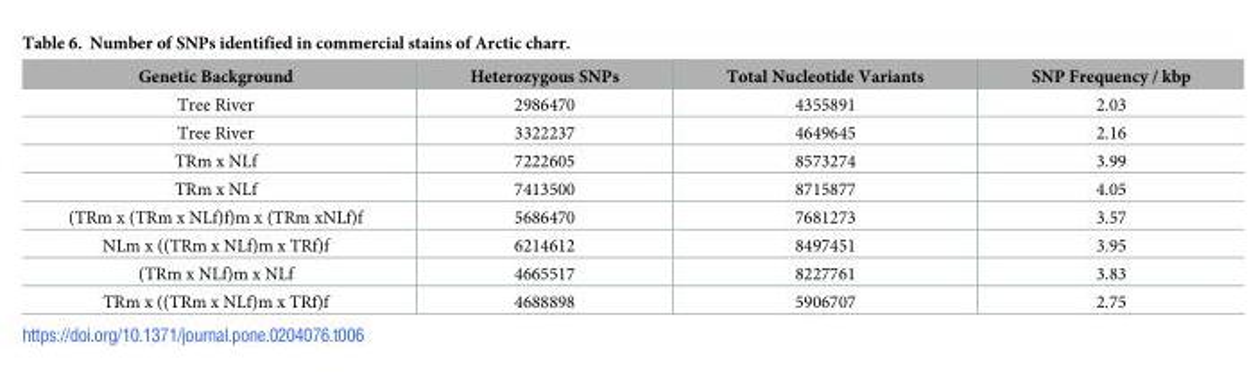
<table><thead><tr><td>Genetic Background</td><td>Heterozygous SNPs</td><td>Total Nucleotide Variants</td><td>SNP Frequency / kbp</td></tr></thead><tbody><tr><td>Tree River</td><td>2986470</td><td>4355891</td><td>2.03</td></tr><tr><td>Tree River</td><td>3322237</td><td>4649645</td><td>2.16</td></tr><tr><td>TRm x NLf</td><td>7222605</td><td>8573274</td><td>3.99</td></tr><tr><td>TRm x NLf</td><td>7413500</td><td>8715877</td><td>4.05</td></tr><tr><td>(TRm x (TRm x NLf)f)m x (TRm xNLf)f</td><td>5686470</td><td>7681273</td><td>3.57</td></tr><tr><td>NLm x ((TRm x NLf)m x TRf)f</td><td>6214612</td><td>8497451</td><td>3.95</td></tr><tr><td>(TRm x NLf)m x NLf</td><td>4665517</td><td>8227761</td><td>3.83</td></tr><tr><td>TRm x ((TRm x NLf)m x TRf)f</td><td>4688898</td><td>5906707</td><td>2.75</td></tr></tbody></table>